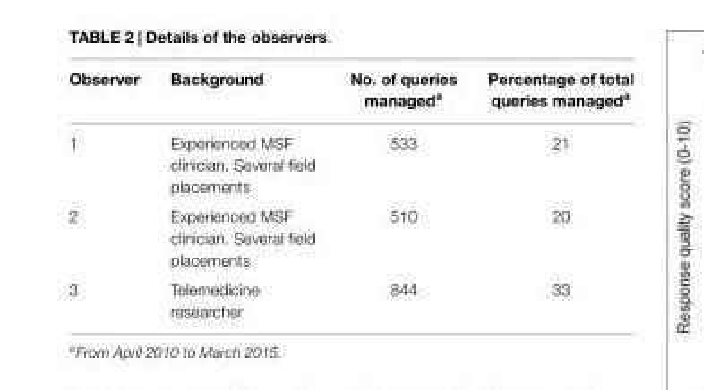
<table><thead><tr><td>Observer</td><td>Background</td><td>No. of queries managed<sup>a</sup></td><td>Percentage of total queries managed<sup>a</sup></td></tr></thead><tbody><tr><td>1</td><td>Experienced MSF clinician. Several field placements</td><td>533</td><td>21</td></tr><tr><td>2</td><td>Experienced MSF clinician. Several field placements</td><td>510</td><td>20</td></tr><tr><td>3</td><td>Telemedicine researcher</td><td>844</td><td>33</td></tr></tbody></table>